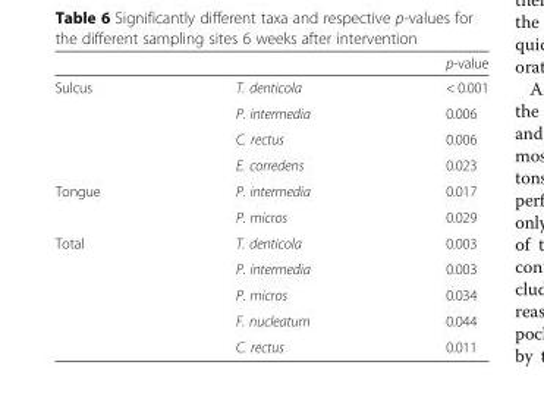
<table><thead><tr><td></td><td></td><td>p-value</td></tr></thead><tbody><tr><td rowspan="4">Sulcus</td><td>T. denticola</td><td>&lt; 0.001</td></tr><tr><td>P. intermedia</td><td>0.006</td></tr><tr><td>C. rectus</td><td>0.006</td></tr><tr><td>E. corredens</td><td>0.023</td></tr><tr><td rowspan="2">Tongue</td><td>P. intermedia</td><td>0.017</td></tr><tr><td>P. micros</td><td>0.029</td></tr><tr><td rowspan="5">Total</td><td>T. denticola</td><td>0.003</td></tr><tr><td>P. intermedia</td><td>0.003</td></tr><tr><td>P. micros</td><td>0.034</td></tr><tr><td>F. nucleatum</td><td>0.044</td></tr><tr><td>C. rectus</td><td>0.011</td></tr></tbody></table>